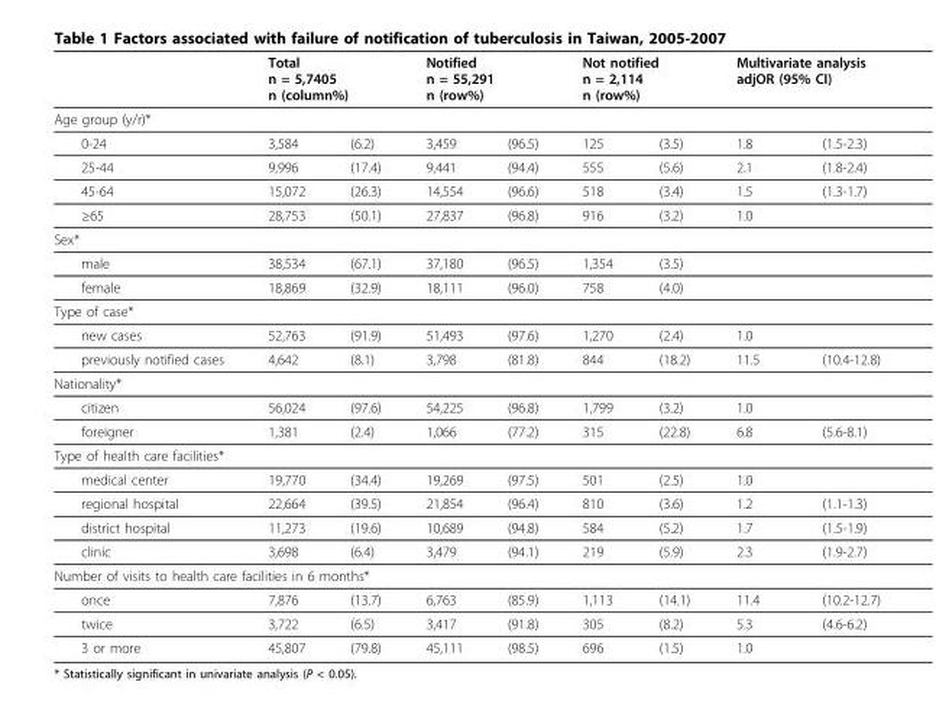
<table><thead><tr><td></td><td colspan="2">Total n = 5,7405 n (column%)</td><td colspan="2">Notified n = 55,291 n (row%)</td><td colspan="2">Not notified n = 2,114 n (row%)</td><td colspan="2">Multivariate analysis adjOR (95% CI)</td></tr><tr><td colspan="9">Age group (y/r)*</td></tr><tr><td>0-24</td><td>3,584</td><td>(6.2)</td><td>3,459</td><td>(96.5)</td><td>125</td><td>(3.5)</td><td>1.8</td><td>(1.5-2.3)</td></tr></thead><tbody><tr><td>25-44</td><td>9,996</td><td>(17.4)</td><td>9,441</td><td>(94.4)</td><td>555</td><td>(5.6)</td><td>2.1</td><td>(1.8-2.4)</td></tr><tr><td>45-64</td><td>15,072</td><td>(26.3)</td><td>14,554</td><td>(96.6)</td><td>518</td><td>(3.4)</td><td>1.5</td><td>(1.3-1.7)</td></tr><tr><td>≥65</td><td>28,753</td><td>(50.1)</td><td>27,837</td><td>(96.8)</td><td>916</td><td>(3.2)</td><td>1.0</td><td></td></tr><tr><td colspan="9">Sex*</td></tr><tr><td>male</td><td>38,534</td><td>(67.1)</td><td>37,180</td><td>(96.5)</td><td>1,354</td><td>(3.5)</td><td></td><td></td></tr><tr><td>female</td><td>18,869</td><td>(32.9)</td><td>18,111</td><td>(96.0)</td><td>758</td><td>(4.0)</td><td></td><td></td></tr><tr><td colspan="9">Type of case*</td></tr><tr><td>new cases</td><td>52,763</td><td>(91.9)</td><td>51,493</td><td>(97.6)</td><td>1,270</td><td>(2.4)</td><td>1.0</td><td></td></tr><tr><td>previously notified cases</td><td>4,642</td><td>(8.1)</td><td>3,798</td><td>(81.8)</td><td>844</td><td>(18.2)</td><td>11.5</td><td>(10.4-12.8)</td></tr><tr><td colspan="9">Nationality*</td></tr><tr><td>citizen</td><td>56,024</td><td>(97.6)</td><td>54,225</td><td>(96.8)</td><td>1,799</td><td>(3.2)</td><td>1.0</td><td></td></tr><tr><td>foreigner</td><td>1,381</td><td>(2.4)</td><td>1,066</td><td>(77.2)</td><td>315</td><td>(22.8)</td><td>6.8</td><td>(5.6-8.1)</td></tr><tr><td colspan="9">Type of health care facilities*</td></tr><tr><td>medical center</td><td>19,770</td><td>(34.4)</td><td>19,269</td><td>(97.5)</td><td>501</td><td>(2.5)</td><td>1.0</td><td></td></tr><tr><td>regional hospital</td><td>22,664</td><td>(39.5)</td><td>21,854</td><td>(96.4)</td><td>810</td><td>(3.6)</td><td>1.2</td><td>(1.1-1.3)</td></tr><tr><td>district hospital</td><td>11,273</td><td>(19.6)</td><td>10,689</td><td>(94.8)</td><td>584</td><td>(5.2)</td><td>1.7</td><td>(1.5-1.9)</td></tr><tr><td>clinic</td><td>3,698</td><td>(6.4)</td><td>3,479</td><td>(94.1)</td><td>219</td><td>(5.9)</td><td>2.3</td><td>(1.9-2.7)</td></tr><tr><td colspan="9">Number of visits to health care facilities in 6 months*</td></tr><tr><td>once</td><td>7,876</td><td>(13.7)</td><td>6,763</td><td>(85.9)</td><td>1,113</td><td>(14.1)</td><td>11.4</td><td>(10.2-12.7)</td></tr><tr><td>twice</td><td>3,722</td><td>(6.5)</td><td>3,417</td><td>(91.8)</td><td>305</td><td>(8.2)</td><td>5.3</td><td>(4.6-6.2)</td></tr><tr><td>3 or more</td><td>45,807</td><td>(79.8)</td><td>45,111</td><td>(98.5)</td><td>696</td><td>(1.5)</td><td>1.0</td><td></td></tr></tbody></table>